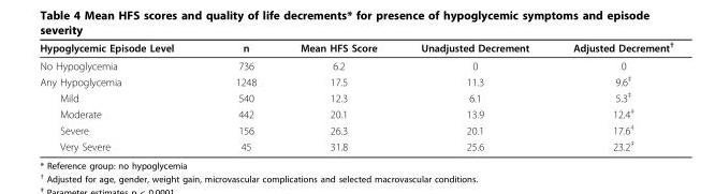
<table><thead><tr><td>Hypoglycemic Episode Level</td><td>n</td><td>Mean HFS Score</td><td>Unadjusted Decrement</td><td>Adjusted Decrement<sup>†</sup></td></tr></thead><tbody><tr><td>No Hypoglycemia</td><td>736</td><td>6.2</td><td>0</td><td>0</td></tr><tr><td>Any Hypoglycemia</td><td>1248</td><td>17.5</td><td>11.3</td><td>9.6<sup>‡</sup></td></tr><tr><td>Mild</td><td>540</td><td>12.3</td><td>6.1</td><td>5.3<sup>‡</sup></td></tr><tr><td>Moderate</td><td>442</td><td>20.1</td><td>13.9</td><td>12.4<sup>‡</sup></td></tr><tr><td>Severe</td><td>156</td><td>26.3</td><td>20.1</td><td>17.6<sup>‡</sup></td></tr><tr><td>Very Severe</td><td>45</td><td>31.8</td><td>25.6</td><td>23.2<sup>‡</sup></td></tr></tbody></table>